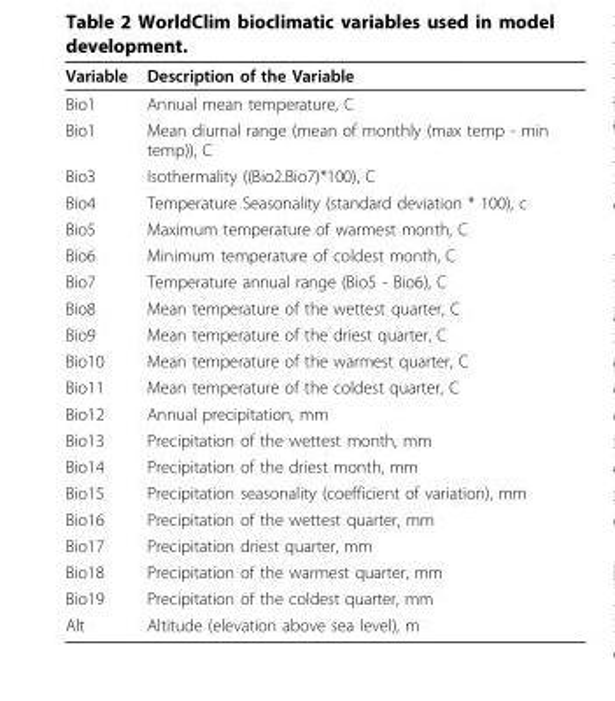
<table><thead><tr><td>Variable</td><td>Description of the Variable</td></tr></thead><tbody><tr><td>Bio1</td><td>Annual mean temperature, C</td></tr><tr><td>Bio1</td><td>Mean diurnal range (mean of monthly (max temp - min temp)), C</td></tr><tr><td>Bio3</td><td>Isothermality ((Bio2.Bio7)*100), C</td></tr><tr><td>Bio4</td><td>Temperature Seasonality (standard deviation * 100), c</td></tr><tr><td>Bio5</td><td>Maximum temperature of warmest month, C</td></tr><tr><td>Bio6</td><td>Minimum temperature of coldest month, C</td></tr><tr><td>Bio7</td><td>Temperature annual range (Bio5 - Bio6), C</td></tr><tr><td>Bio8</td><td>Mean temperature of the wettest quarter, C</td></tr><tr><td>Bio9</td><td>Mean temperature of the driest quarter, C</td></tr><tr><td>Bio10</td><td>Mean temperature of the warmest quarter, C</td></tr><tr><td>Bio11</td><td>Mean temperature of the coldest quarter, C</td></tr><tr><td>Bio12</td><td>Annual precipitation, mm</td></tr><tr><td>Bio13</td><td>Precipitation of the wettest month, mm</td></tr><tr><td>Bio14</td><td>Precipitation of the driest month, mm</td></tr><tr><td>Bio15</td><td>Precipitation seasonality (coefficient of variation), mm</td></tr><tr><td>Bio16</td><td>Precipitation of the wettest quarter, mm</td></tr><tr><td>Bio17</td><td>Precipitation driest quarter, mm</td></tr><tr><td>Bio18</td><td>Precipitation of the warmest quarter, mm</td></tr><tr><td>Bio19</td><td>Precipitation of the coldest quarter, mm</td></tr><tr><td>Alt</td><td>Altitude (elevation above sea level), m</td></tr></tbody></table>